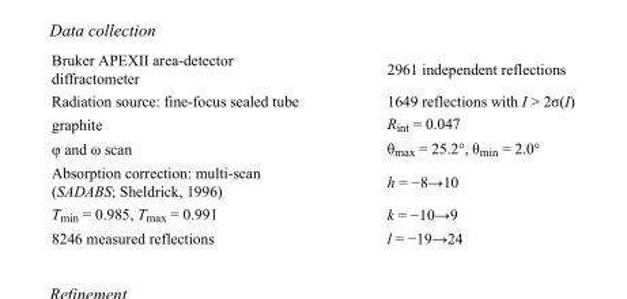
<table><tbody><tr><td>Bruker APEXII area-detector diffractometer</td><td>2961 independent reflections</td></tr><tr><td>Radiation source: fine-focus sealed tube</td><td>1649 reflections with I &gt; 2σ(I)</td></tr><tr><td>graphite</td><td>R<sub>int</sub> = 0.047</td></tr><tr><td>φ and ω scan</td><td>θ<sub>max</sub> = 25.2°, θ<sub>min</sub> = 2.0°</td></tr><tr><td>Absorption correction: multi-scan (SADABS; Sheldrick, 1996)</td><td>h = −8→10</td></tr><tr><td>T<sub>min</sub> = 0.985, T<sub>max</sub> = 0.991</td><td>k = −10→9</td></tr><tr><td>8246 measured reflections</td><td>l = −19→24</td></tr></tbody></table>